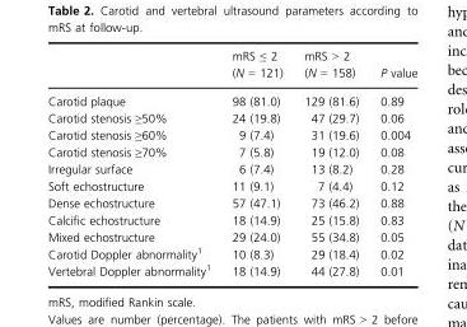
<table><thead><tr><td></td><td>mRS ≤ 2 (N = 121)</td><td>mRS &gt; 2 (N = 158)</td><td>P value</td></tr></thead><tbody><tr><td>Carotid plaque</td><td>98 (81.0)</td><td>129 (81.6)</td><td>0.89</td></tr><tr><td>Carotid stenosis ≥50%</td><td>24 (19.8)</td><td>47 (29.7)</td><td>0.06</td></tr><tr><td>Carotid stenosis ≥60%</td><td>9 (7.4)</td><td>31 (19.6)</td><td>0.004</td></tr><tr><td>Carotid stenosis ≥70%</td><td>7 (5.8)</td><td>19 (12.0)</td><td>0.08</td></tr><tr><td>Irregular surface</td><td>6 (7.4)</td><td>13 (8.2)</td><td>0.28</td></tr><tr><td>Soft echostructure</td><td>11 (9.1)</td><td>7 (4.4)</td><td>0.12</td></tr><tr><td>Dense echostructure</td><td>57 (47.1)</td><td>73 (46.2)</td><td>0.88</td></tr><tr><td>Calcific echostructure</td><td>18 (14.9)</td><td>25 (15.8)</td><td>0.83</td></tr><tr><td>Mixed echostructure</td><td>29 (24.0)</td><td>55 (34.8)</td><td>0.05</td></tr><tr><td>Carotid Doppler abnormality1</td><td>10 (8.3)</td><td>29 (18.4)</td><td>0.02</td></tr><tr><td>Vertebral Doppler abnormality1</td><td>18 (14.9)</td><td>44 (27.8)</td><td>0.01</td></tr></tbody></table>